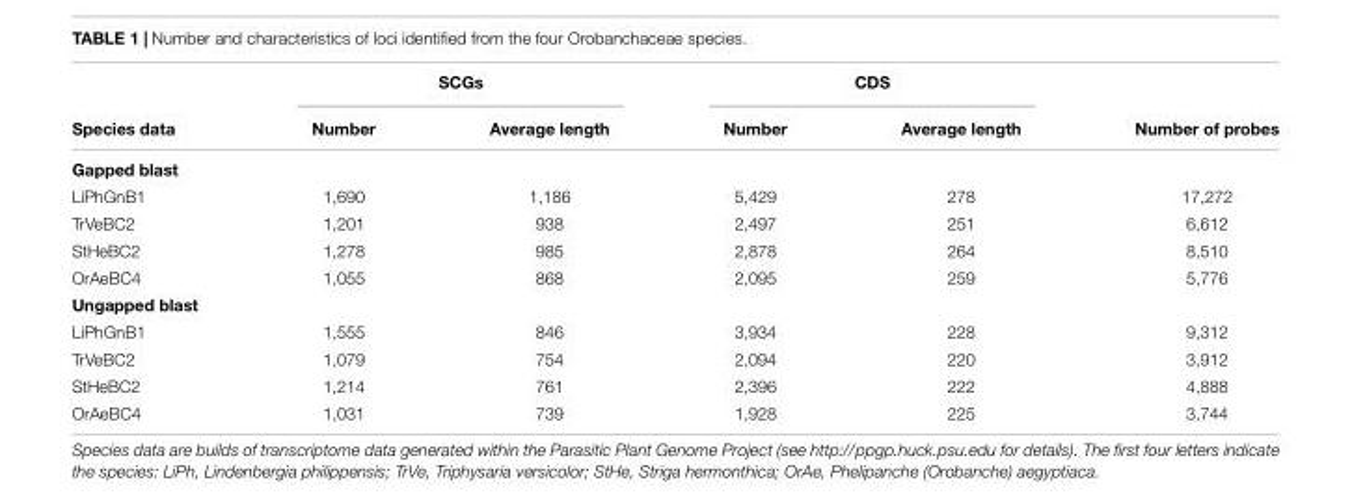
<table><thead><tr><td rowspan="2">Species data</td><td colspan="2">SCGs</td><td colspan="2">CDS</td><td rowspan="2">Number of probes</td></tr><tr><td>Number</td><td>Average length</td><td>Number</td><td>Average length</td></tr></thead><tbody><tr><td colspan="6">Gapped blast</td></tr><tr><td>LiPhGnB1</td><td>1,690</td><td>1,186</td><td>5,429</td><td>278</td><td>17,272</td></tr><tr><td>TrVeBC2</td><td>1,201</td><td>938</td><td>2,497</td><td>251</td><td>6,612</td></tr><tr><td>StHeBC2</td><td>1,278</td><td>985</td><td>2,878</td><td>264</td><td>8,510</td></tr><tr><td>OrAeBC4</td><td>1,055</td><td>868</td><td>2,095</td><td>259</td><td>5,776</td></tr><tr><td colspan="6">Ungapped blast</td></tr><tr><td>LiPhGnB1</td><td>1,555</td><td>846</td><td>3,934</td><td>228</td><td>9,312</td></tr><tr><td>TrVeBC2</td><td>1,079</td><td>754</td><td>2,094</td><td>220</td><td>3,912</td></tr><tr><td>StHeBC2</td><td>1,214</td><td>761</td><td>2,396</td><td>222</td><td>4,888</td></tr><tr><td>OrAeBC4</td><td>1,031</td><td>739</td><td>1,928</td><td>225</td><td>3,744</td></tr></tbody></table>